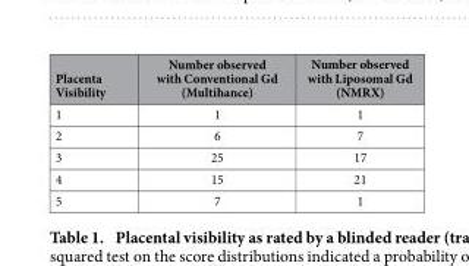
<table><thead><tr><td>Placenta Visibility</td><td>Number observed with Conventional Gd (Multihance)</td><td>Number observed with Liposomal Gd (NMRX)</td></tr></thead><tbody><tr><td>1</td><td>1</td><td>1</td></tr><tr><td>2</td><td>6</td><td>7</td></tr><tr><td>3</td><td>25</td><td>17</td></tr><tr><td>4</td><td>15</td><td>21</td></tr><tr><td>5</td><td>7</td><td>1</td></tr></tbody></table>